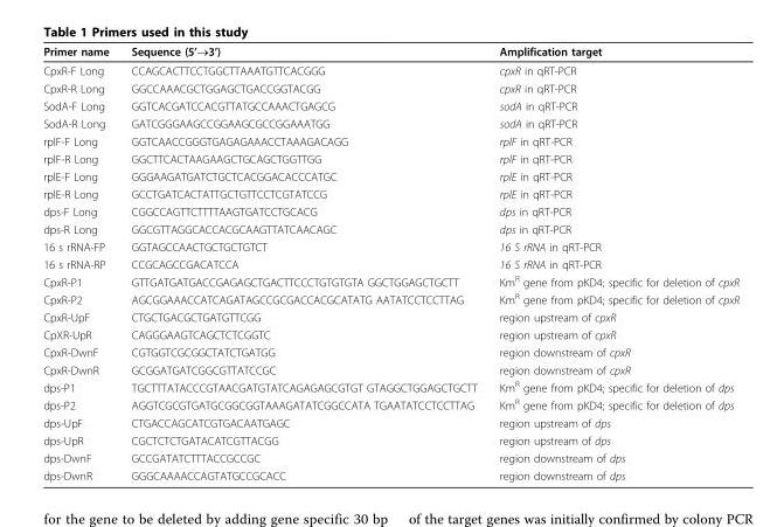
<table><thead><tr><td>Primer name</td><td>Sequence (5’→3’)</td><td>Amplification target</td></tr></thead><tbody><tr><td>CpxR-F Long</td><td>CCAGCACTTCCTGGCTTAAATGTTCACGGG</td><td>cpxR in qRT-PCR</td></tr><tr><td>CpxR-R Long</td><td>GGCCAAACGCTGGAGCTGACCGGTACGG</td><td>cpxR in qRT-PCR</td></tr><tr><td>SodA-F Long</td><td>GGTCACGATCCACGTTATGCCAAACTGAGCG</td><td>sodA in qRT-PCR</td></tr><tr><td>SodA-R Long</td><td>GATCGGGAAGCCGGAAGCGCCGGAAATGG</td><td>sodA in qRT-PCR</td></tr><tr><td>rplF-F Long</td><td>GGTCAACCGGGTGAGAGAAACCTAAAGACAGG</td><td>rplF in qRT-PCR</td></tr><tr><td>rplF-R Long</td><td>GGCTTCACTAAGAAGCTGCAGCTGGTTGG</td><td>rplF in qRT-PCR</td></tr><tr><td>rplE-F Long</td><td>GGGAAGATGATCTGCTCACGGACACCCATGC</td><td>rplE in qRT-PCR</td></tr><tr><td>rplE-R Long</td><td>GCCTGATCACTATTGCTGTTCCTCGTATCCG</td><td>rplE in qRT-PCR</td></tr><tr><td>dps-F Long</td><td>CGGCCAGTTCTTTTAAGTGATCCTGCACG</td><td>dps in qRT-PCR</td></tr><tr><td>dps-R Long</td><td>GGCGTTAGGCACCACGCAAGTTATCAACAGC</td><td>dps in qRT-PCR</td></tr><tr><td>16 s rRNA-FP</td><td>GGTAGCCAACTGCTGCTGTCT</td><td>16 S rRNA in qRT-PCR</td></tr><tr><td>16 s rRNA-RP</td><td>CCGCAGCCGACATCCA</td><td>16 S rRNA in qRT-PCR</td></tr><tr><td>CpxR-P1</td><td>GTTGATGATGACCGAGAGCTGACTTCCCTGTGTGTA GGCTGGAGCTGCTT</td><td>Km<sup>R</sup> gene from pKD4; specific for deletion of cpxR</td></tr><tr><td>CpxR-P2</td><td>AGCGGAAACCATCAGATAGCCGCGACCACGCATATG AATATCCTCCTTAG</td><td>Km<sup>R</sup> gene from pKD4; specific for deletion of cpxR</td></tr><tr><td>CpxR-UpF</td><td>CTGCTGACGCTGATGTTCGG</td><td>region upstream of cpxR</td></tr><tr><td>CpXR-UpR</td><td>CAGGGAAGTCAGCTCTCGGTC</td><td>region upstream of cpxR</td></tr><tr><td>CpxR-DwnF</td><td>CGTGGTCGCGGCTATCTGATGG</td><td>region downstream of cpxR</td></tr><tr><td>CpxR-DwnR</td><td>GCGGATGATCGGCGTTATCCGC</td><td>region downstream of cpxR</td></tr><tr><td>dps-P1</td><td>TGCTTTATACCCGTAACGATGTATCAGAGAGCGTGT GTAGGCTGGAGCTGCTT</td><td>Km<sup>R</sup> gene from pKD4; specific for deletion of dps</td></tr><tr><td>dps-P2</td><td>AGGTCGCGTGATGCGGCGGTAAAGATATCGGCCATA TGAATATCCTCCTTAG</td><td>Km<sup>R</sup> gene from pKD4; specific for deletion of dps</td></tr><tr><td>dps-UpF</td><td>CTGACCAGCATCGTGACAATGAGC</td><td>region upstream of dps</td></tr><tr><td>dps-UpR</td><td>CGCTCTCTGATACATCGTTACGG</td><td>region upstream of dps</td></tr><tr><td>dps-DwnF</td><td>GCCGATATCTTTACCGCCGC</td><td>region downstream of dps</td></tr><tr><td>dps-DwnR</td><td>GGGCAAAACCAGTATGCCGCACC</td><td>region downstream of dps</td></tr></tbody></table>